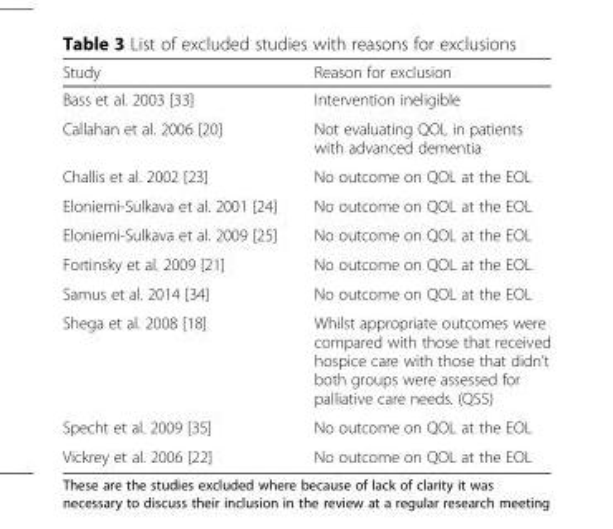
<table><thead><tr><td>Study</td><td>Reason for exclusion</td></tr></thead><tbody><tr><td>Bass et al. 2003 [33]</td><td>Intervention ineligible</td></tr><tr><td>Callahan et al. 2006 [20]</td><td>Not evaluating QOL in patients with advanced dementia</td></tr><tr><td>Challis et al. 2002 [23]</td><td>No outcome on QOL at the EOL</td></tr><tr><td>Eloniemi-Sulkava et al. 2001 [24]</td><td>No outcome on QOL at the EOL</td></tr><tr><td>Eloniemi-Sulkava et al. 2009 [25]</td><td>No outcome on QOL at the EOL</td></tr><tr><td>Fortinsky et al. 2009 [21]</td><td>No outcome on QOL at the EOL</td></tr><tr><td>Samus et al. 2014 [34]</td><td>No outcome on QOL at the EOL</td></tr><tr><td>Shega et al. 2008 [18]</td><td>Whilst appropriate outcomes were compared with those that received hospice care with those that didn’t both groups were assessed for palliative care needs. (QS5)</td></tr><tr><td>Specht et al. 2009 [35]</td><td>No outcome on QOL at the EOL</td></tr><tr><td>Vickrey et al. 2006 [22]</td><td>No outcome on QOL at the EOL</td></tr></tbody></table>